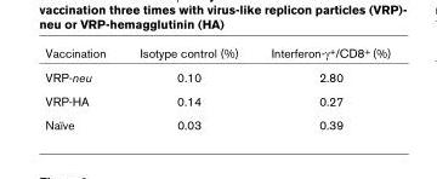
<table><thead><tr><td>Vaccination</td><td>Isotype control (%)</td><td>Interferon-γ+/CD8+ (%)</td></tr></thead><tbody><tr><td>VRP-neu</td><td>0.10</td><td>2.80</td></tr><tr><td>VRP-HA</td><td>0.14</td><td>0.27</td></tr><tr><td>Naïve</td><td>0.03</td><td>0.39</td></tr></tbody></table>